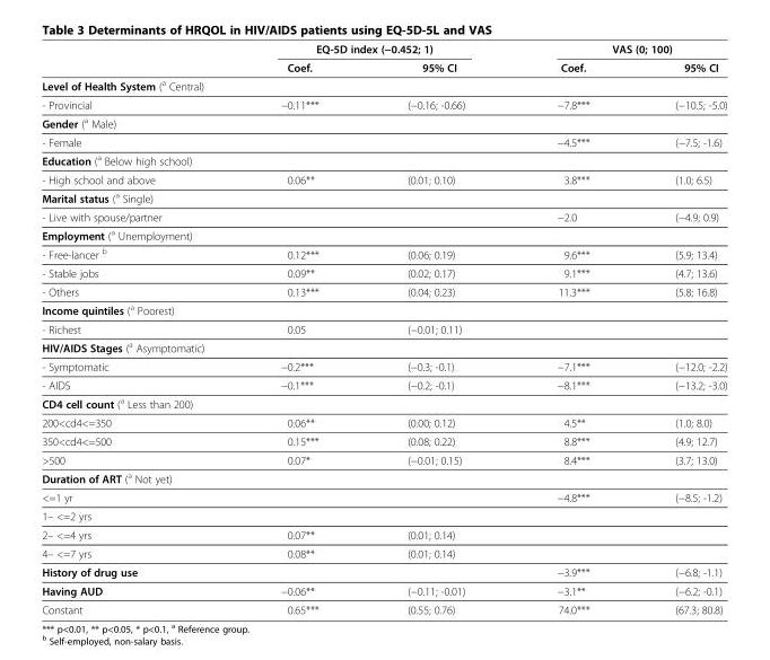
<table><thead><tr><td rowspan="2"></td><td colspan="2">EQ-5D index (−0.452; 1)</td><td colspan="2">VAS (0; 100)</td></tr><tr><td>Coef.</td><td>95% CI</td><td>Coef.</td><td>95% CI</td></tr></thead><tbody><tr><td colspan="5">Level of Health System (<sup>a</sup> Central)</td></tr><tr><td>- Provincial</td><td>−0.11***</td><td>(−0.16; -0.66)</td><td>−7.8***</td><td>(−10.5; -5.0)</td></tr><tr><td colspan="5">Gender (<sup>a</sup> Male)</td></tr><tr><td>- Female</td><td></td><td></td><td>−4.5***</td><td>(−7.5; -1.6)</td></tr><tr><td colspan="5">Education (<sup>a</sup> Below high school)</td></tr><tr><td>- High school and above</td><td>0.06**</td><td>(0.01; 0.10)</td><td>3.8***</td><td>(1.0; 6.5)</td></tr><tr><td colspan="5">Marital status (<sup>a</sup> Single)</td></tr><tr><td>- Live with spouse/partner</td><td></td><td></td><td>−2.0</td><td>(−4.9; 0.9)</td></tr><tr><td colspan="5">Employment (<sup>a</sup> Unemployment)</td></tr><tr><td>- Free-lancer <sup>b</sup></td><td>0.12***</td><td>(0.06; 0.19)</td><td>9.6***</td><td>(5.9; 13.4)</td></tr><tr><td>- Stable jobs</td><td>0.09**</td><td>(0.02; 0.17)</td><td>9.1***</td><td>(4.7; 13.6)</td></tr><tr><td>- Others</td><td>0.13***</td><td>(0.04; 0.23)</td><td>11.3***</td><td>(5.8; 16.8)</td></tr><tr><td colspan="5">Income quintiles (<sup>a</sup> Poorest)</td></tr><tr><td>- Richest</td><td>0.05</td><td>(−0.01; 0.11)</td><td></td><td></td></tr><tr><td colspan="5">HIV/AIDS Stages (<sup>a</sup> Asymptomatic)</td></tr><tr><td>- Symptomatic</td><td>−0.2***</td><td>(−0.3; -0.1)</td><td>−7.1***</td><td>(−12.0; -2.2)</td></tr><tr><td>- AIDS</td><td>−0.1***</td><td>(−0.2; -0.1)</td><td>−8.1***</td><td>(−13.2; -3.0)</td></tr><tr><td colspan="5">CD4 cell count (<sup>a</sup> Less than 200)</td></tr><tr><td>200&lt;cd4&lt;=350</td><td>0.06**</td><td>(0.00; 0.12)</td><td>4.5**</td><td>(1.0; 8.0)</td></tr><tr><td>350&lt;cd4&lt;=500</td><td>0.15***</td><td>(0.08; 0.22)</td><td>8.8***</td><td>(4.9; 12.7)</td></tr><tr><td>&gt;500</td><td>0.07*</td><td>(−0.01; 0.15)</td><td>8.4***</td><td>(3.7; 13.0)</td></tr><tr><td colspan="5">Duration of ART (<sup>a</sup> Not yet)</td></tr><tr><td>&lt;=1 yr</td><td></td><td></td><td>−4.8***</td><td>(−8.5; -1.2)</td></tr><tr><td colspan="5">1– &lt;=2 yrs</td></tr><tr><td>2– &lt;=4 yrs</td><td>0.07**</td><td>(0.01; 0.14)</td><td></td><td></td></tr><tr><td>4– &lt;=7 yrs</td><td>0.08**</td><td>(0.01; 0.14)</td><td></td><td></td></tr><tr><td>History of drug use</td><td></td><td></td><td>−3.9***</td><td>(−6.8; -1.1)</td></tr><tr><td>Having AUD</td><td>−0.06**</td><td>(−0.11; -0.01)</td><td>−3.1**</td><td>(−6.2; -0.1)</td></tr><tr><td>Constant</td><td>0.65***</td><td>(0.55; 0.76)</td><td>74.0***</td><td>(67.3; 80.8)</td></tr></tbody></table>